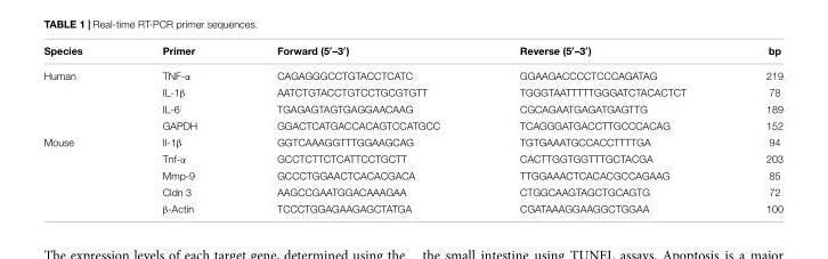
<table><thead><tr><td>Species</td><td>Primer</td><td>Forward (5′–3′)</td><td>Reverse (5′–3′)</td><td>bp</td></tr></thead><tbody><tr><td rowspan="4">Human</td><td>TNF-α</td><td>CAGAGGGCCTGTACCTCATC</td><td>GGAAGACCCCTCCCAGATAG</td><td>219</td></tr><tr><td>IL-1β</td><td>AATCTGTACCTGTCCTGCGTGTT</td><td>TGGGTAATTTTTGGGATCTACACTCT</td><td>78</td></tr><tr><td>IL-6</td><td>TGAGAGTAGTGAGGAACAAG</td><td>CGCAGAATGAGATGAGTTG</td><td>189</td></tr><tr><td>GAPDH</td><td>GGACTCATGACCACAGTCCATGCC</td><td>TCAGGGATGACCTTGCCCACAG</td><td>152</td></tr><tr><td rowspan="5">Mouse</td><td>Il-1β</td><td>GGTCAAAGGTTTGGAAGCAG</td><td>TGTGAAATGCCACCTTTTGA</td><td>94</td></tr><tr><td>Tnf-α</td><td>GCCTCTTCTCATTCCTGCTT</td><td>CACTTGGTGGTTTGCTACGA</td><td>203</td></tr><tr><td>Mmp-9</td><td>GCCCTGGAACTCACACGACA</td><td>TTGGAAACTCACACGCCAGAAG</td><td>85</td></tr><tr><td>Cldn 3</td><td>AAGCCGAATGGACAAAGAA</td><td>CTGGCAAGTAGCTGCAGTG</td><td>72</td></tr><tr><td>β-Actin</td><td>TCCCTGGAGAAGAGCTATGA</td><td>CGATAAAGGAAGGCTGGAA</td><td>100</td></tr></tbody></table>